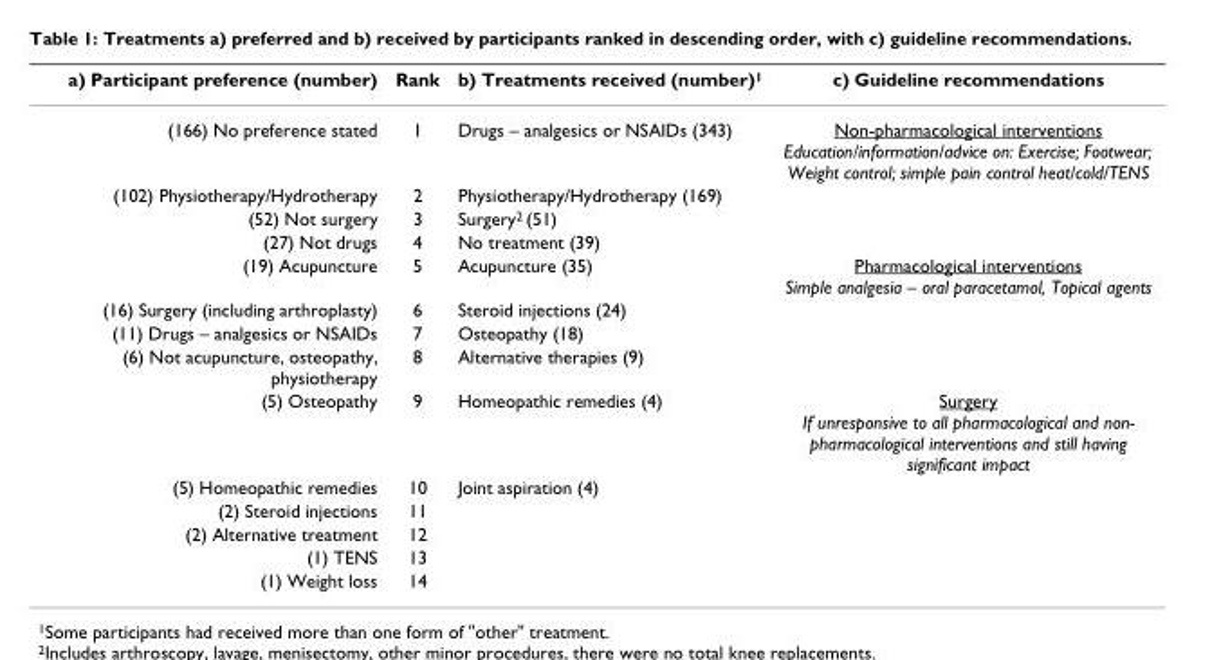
<table><thead><tr><td>a) Participant preference (number)</td><td>Rank</td><td>b) Treatments received (number)<sup>1</sup></td><td>c) Guideline recommendations</td></tr></thead><tbody><tr><td>(166) No preference stated</td><td>1</td><td>Drugs – analgesics or NSAIDs (343)</td><td>Non-pharmacological interventions Education/information/advice on: Exercise; Footwear; Weight control; simple pain control heat/cold/TENS</td></tr><tr><td>(102) Physiotherapy/Hydrotherapy</td><td>2</td><td>Physiotherapy/Hydrotherapy (169)</td><td></td></tr><tr><td>(52) Not surgery</td><td>3</td><td>Surgery<sup>2</sup> (51)</td><td></td></tr><tr><td>(27) Not drugs</td><td>4</td><td>No treatment (39)</td><td></td></tr><tr><td>(19) Acupuncture</td><td>5</td><td>Acupuncture (35)</td><td>Pharmacological interventions Simple analgesia – oral paracetamol, Topical agents</td></tr><tr><td>(16) Surgery (including arthroplasty)</td><td>6</td><td>Steroid injections (24)</td><td></td></tr><tr><td>(11) Drugs – analgesics or NSAIDs</td><td>7</td><td>Osteopathy (18)</td><td></td></tr><tr><td>(6) Not acupuncture, osteopathy, physiotherapy</td><td>8</td><td>Alternative therapies (9)</td><td></td></tr><tr><td>(5) Osteopathy</td><td>9</td><td>Homeopathic remedies (4)</td><td>Surgery If unresponsive to all pharmacological and non- pharmacological interventions and still having significant impact</td></tr><tr><td>(5) Homeopathic remedies</td><td>10</td><td>Joint aspiration (4)</td><td></td></tr><tr><td>(2) Steroid injections</td><td>11</td><td></td><td></td></tr><tr><td>(2) Alternative treatment</td><td>12</td><td></td><td></td></tr><tr><td>(1) TENS</td><td>13</td><td></td><td></td></tr><tr><td>(1) Weight loss</td><td>14</td><td></td><td></td></tr></tbody></table>